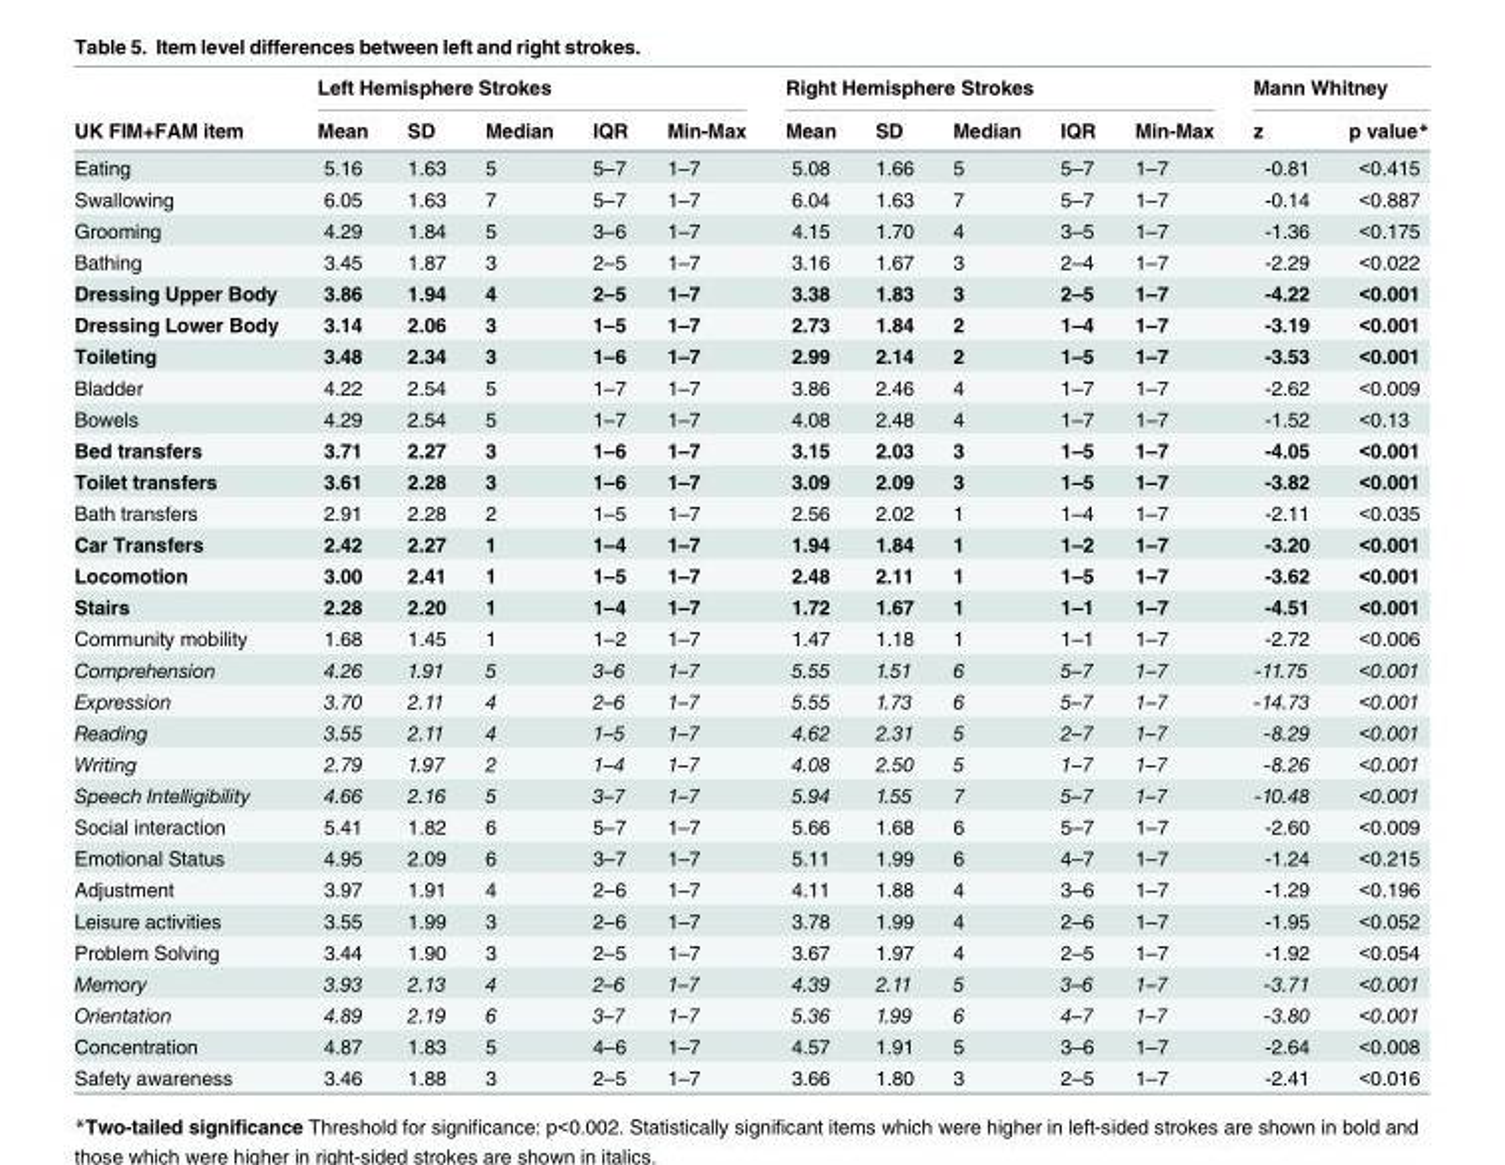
<table><thead><tr><td rowspan="2">UK FIM+FAM item</td><td colspan="5">Left Hemisphere Strokes</td><td colspan="5">Right Hemisphere Strokes</td><td colspan="2">Mann Whitney</td></tr><tr><td>Mean</td><td>SD</td><td>Median</td><td>IQR</td><td>Min-Max</td><td>Mean</td><td>SD</td><td>Median</td><td>IQR</td><td>Min-Max</td><td>z</td><td>p value*</td></tr></thead><tbody><tr><td>Eating</td><td>5.16</td><td>1.63</td><td>5</td><td>5–7</td><td>1–7</td><td>5.08</td><td>1.66</td><td>5</td><td>5–7</td><td>1–7</td><td>-0.81</td><td>&lt;0.415</td></tr><tr><td>Swallowing</td><td>6.05</td><td>1.63</td><td>7</td><td>5–7</td><td>1–7</td><td>6.04</td><td>1.63</td><td>7</td><td>5–7</td><td>1–7</td><td>-0.14</td><td>&lt;0.887</td></tr><tr><td>Grooming</td><td>4.29</td><td>1.84</td><td>5</td><td>3–6</td><td>1–7</td><td>4.15</td><td>1.70</td><td>4</td><td>3–5</td><td>1–7</td><td>-1.36</td><td>&lt;0.175</td></tr><tr><td>Bathing</td><td>3.45</td><td>1.87</td><td>3</td><td>2–5</td><td>1–7</td><td>3.16</td><td>1.67</td><td>3</td><td>2–4</td><td>1–7</td><td>-2.29</td><td>&lt;0.022</td></tr><tr><td>Dressing Upper Body</td><td>3.86</td><td>1.94</td><td>4</td><td>2–5</td><td>1–7</td><td>3.38</td><td>1.83</td><td>3</td><td>2–5</td><td>1–7</td><td>-4.22</td><td>&lt;0.001</td></tr><tr><td>Dressing Lower Body</td><td>3.14</td><td>2.06</td><td>3</td><td>1–5</td><td>1–7</td><td>2.73</td><td>1.84</td><td>2</td><td>1–4</td><td>1–7</td><td>-3.19</td><td>&lt;0.001</td></tr><tr><td>Toileting</td><td>3.48</td><td>2.34</td><td>3</td><td>1–6</td><td>1–7</td><td>2.99</td><td>2.14</td><td>2</td><td>1–5</td><td>1–7</td><td>-3.53</td><td>&lt;0.001</td></tr><tr><td>Bladder</td><td>4.22</td><td>2.54</td><td>5</td><td>1–7</td><td>1–7</td><td>3.86</td><td>2.46</td><td>4</td><td>1–7</td><td>1–7</td><td>-2.62</td><td>&lt;0.009</td></tr><tr><td>Bowels</td><td>4.29</td><td>2.54</td><td>5</td><td>1–7</td><td>1–7</td><td>4.08</td><td>2.48</td><td>4</td><td>1–7</td><td>1–7</td><td>-1.52</td><td>&lt;0.13</td></tr><tr><td>Bed transfers</td><td>3.71</td><td>2.27</td><td>3</td><td>1–6</td><td>1–7</td><td>3.15</td><td>2.03</td><td>3</td><td>1–5</td><td>1–7</td><td>-4.05</td><td>&lt;0.001</td></tr><tr><td>Toilet transfers</td><td>3.61</td><td>2.28</td><td>3</td><td>1–6</td><td>1–7</td><td>3.09</td><td>2.09</td><td>3</td><td>1–5</td><td>1–7</td><td>-3.82</td><td>&lt;0.001</td></tr><tr><td>Bath transfers</td><td>2.91</td><td>2.28</td><td>2</td><td>1–5</td><td>1–7</td><td>2.56</td><td>2.02</td><td>1</td><td>1–4</td><td>1–7</td><td>-2.11</td><td>&lt;0.035</td></tr><tr><td>Car Transfers</td><td>2.42</td><td>2.27</td><td>1</td><td>1–4</td><td>1–7</td><td>1.94</td><td>1.84</td><td>1</td><td>1–2</td><td>1–7</td><td>-3.20</td><td>&lt;0.001</td></tr><tr><td>Locomotion</td><td>3.00</td><td>2.41</td><td>1</td><td>1–5</td><td>1–7</td><td>2.48</td><td>2.11</td><td>1</td><td>1–5</td><td>1–7</td><td>-3.62</td><td>&lt;0.001</td></tr><tr><td>Stairs</td><td>2.28</td><td>2.20</td><td>1</td><td>1–4</td><td>1–7</td><td>1.72</td><td>1.67</td><td>1</td><td>1–1</td><td>1–7</td><td>-4.51</td><td>&lt;0.001</td></tr><tr><td>Community mobility</td><td>1.68</td><td>1.45</td><td>1</td><td>1–2</td><td>1–7</td><td>1.47</td><td>1.18</td><td>1</td><td>1–1</td><td>1–7</td><td>-2.72</td><td>&lt;0.006</td></tr><tr><td>Comprehension</td><td>4.26</td><td>1.91</td><td>5</td><td>3–6</td><td>1–7</td><td>5.55</td><td>1.51</td><td>6</td><td>5–7</td><td>1–7</td><td>-11.75</td><td>&lt;0.001</td></tr><tr><td>Expression</td><td>3.70</td><td>2.11</td><td>4</td><td>2–6</td><td>1–7</td><td>5.55</td><td>1.73</td><td>6</td><td>5–7</td><td>1–7</td><td>-14.73</td><td>&lt;0.001</td></tr><tr><td>Reading</td><td>3.55</td><td>2.11</td><td>4</td><td>1–5</td><td>1–7</td><td>4.62</td><td>2.31</td><td>5</td><td>2–7</td><td>1–7</td><td>-8.29</td><td>&lt;0.001</td></tr><tr><td>Writing</td><td>2.79</td><td>1.97</td><td>2</td><td>1–4</td><td>1–7</td><td>4.08</td><td>2.50</td><td>5</td><td>1–7</td><td>1–7</td><td>-8.26</td><td>&lt;0.001</td></tr><tr><td>Speech Intelligibility</td><td>4.66</td><td>2.16</td><td>5</td><td>3–7</td><td>1–7</td><td>5.94</td><td>1.55</td><td>7</td><td>5–7</td><td>1–7</td><td>-10.48</td><td>&lt;0.001</td></tr><tr><td>Social interaction</td><td>5.41</td><td>1.82</td><td>6</td><td>5–7</td><td>1–7</td><td>5.66</td><td>1.68</td><td>6</td><td>5–7</td><td>1–7</td><td>-2.60</td><td>&lt;0.009</td></tr><tr><td>Emotional Status</td><td>4.95</td><td>2.09</td><td>6</td><td>3–7</td><td>1–7</td><td>5.11</td><td>1.99</td><td>6</td><td>4–7</td><td>1–7</td><td>-1.24</td><td>&lt;0.215</td></tr><tr><td>Adjustment</td><td>3.97</td><td>1.91</td><td>4</td><td>2–6</td><td>1–7</td><td>4.11</td><td>1.88</td><td>4</td><td>3–6</td><td>1–7</td><td>-1.29</td><td>&lt;0.196</td></tr><tr><td>Leisure activities</td><td>3.55</td><td>1.99</td><td>3</td><td>2–6</td><td>1–7</td><td>3.78</td><td>1.99</td><td>4</td><td>2–6</td><td>1–7</td><td>-1.95</td><td>&lt;0.052</td></tr><tr><td>Problem Solving</td><td>3.44</td><td>1.90</td><td>3</td><td>2–5</td><td>1–7</td><td>3.67</td><td>1.97</td><td>4</td><td>2–5</td><td>1–7</td><td>-1.92</td><td>&lt;0.054</td></tr><tr><td>Memory</td><td>3.93</td><td>2.13</td><td>4</td><td>2–6</td><td>1–7</td><td>4.39</td><td>2.11</td><td>5</td><td>3–6</td><td>1–7</td><td>-3.71</td><td>&lt;0.001</td></tr><tr><td>Orientation</td><td>4.89</td><td>2.19</td><td>6</td><td>3–7</td><td>1–7</td><td>5.36</td><td>1.99</td><td>6</td><td>4–7</td><td>1–7</td><td>-3.80</td><td>&lt;0.001</td></tr><tr><td>Concentration</td><td>4.87</td><td>1.83</td><td>5</td><td>4–6</td><td>1–7</td><td>4.57</td><td>1.91</td><td>5</td><td>3–6</td><td>1–7</td><td>-2.64</td><td>&lt;0.008</td></tr><tr><td>Safety awareness</td><td>3.46</td><td>1.88</td><td>3</td><td>2–5</td><td>1–7</td><td>3.66</td><td>1.80</td><td>3</td><td>2–5</td><td>1–7</td><td>-2.41</td><td>&lt;0.016</td></tr></tbody></table>